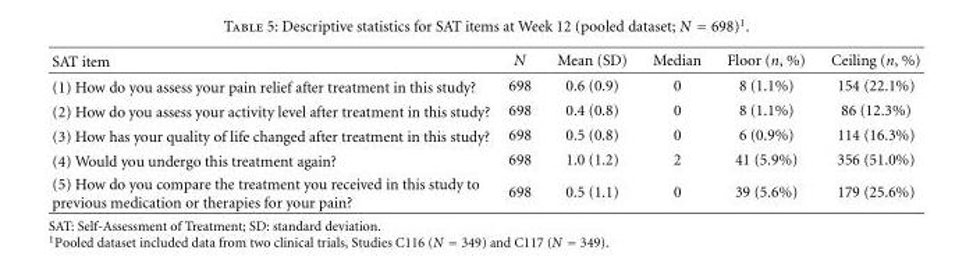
<table><thead><tr><td>SAT item</td><td>N</td><td>Mean (SD)</td><td>Median</td><td>Floor (n, %)</td><td>Ceiling (n, %)</td></tr></thead><tbody><tr><td>(1) How do you assess your pain relief after treatment in this study?</td><td>698</td><td>0.6 (0.9)</td><td>0</td><td>8 (1.1%)</td><td>154 (22.1%)</td></tr><tr><td>(2) How do you assess your activity level after treatment in this study?</td><td>698</td><td>0.4 (0.8)</td><td>0</td><td>8 (1.1%)</td><td>86 (12.3%)</td></tr><tr><td>(3) How has your quality of life changed after treatment in this study?</td><td>698</td><td>0.5 (0.8)</td><td>0</td><td>6 (0.9%)</td><td>114 (16.3%)</td></tr><tr><td>(4) Would you undergo this treatment again?</td><td>698</td><td>1.0 (1.2)</td><td>2</td><td>41 (5.9%)</td><td>356 (51.0%)</td></tr><tr><td>(5) How do you compare the treatment you received in this study to previous medication or therapies for your pain?</td><td>698</td><td>0.5 (1.1)</td><td>0</td><td>39 (5.6%)</td><td>179 (25.6%)</td></tr></tbody></table>